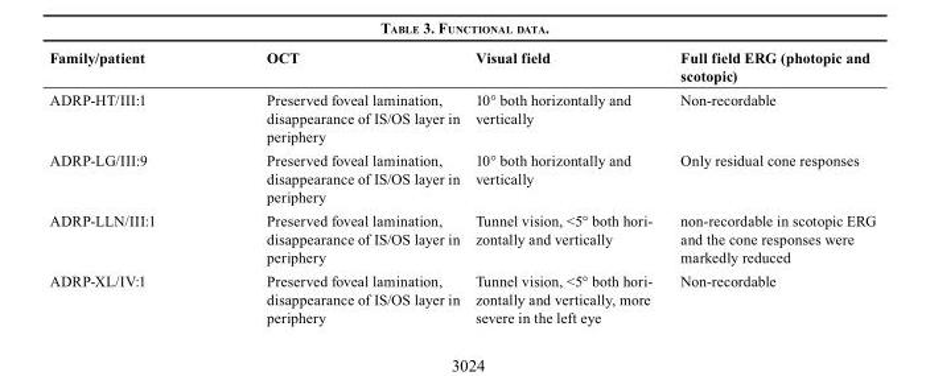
<table><thead><tr><td>Family/patient</td><td>OCT</td><td>Visual field</td><td>Full field ERG (photopic and scotopic)</td></tr></thead><tbody><tr><td>ADRP-HT/III:1</td><td>Preserved foveal lamination, disappearance of IS/OS layer in periphery</td><td>10° both horizontally and vertically</td><td>Non-recordable</td></tr><tr><td>ADRP-LG/III:9</td><td>Preserved foveal lamination, disappearance of IS/OS layer in periphery</td><td>10° both horizontally and vertically</td><td>Only residual cone responses</td></tr><tr><td>ADRP-LLN/III:1</td><td>Preserved foveal lamination, disappearance of IS/OS layer in periphery</td><td>Tunnel vision, &lt;5° both hori- zontally and vertically</td><td>non-recordable in scotopic ERG and the cone responses were markedly reduced</td></tr><tr><td>ADRP-XL/IV:1</td><td>Preserved foveal lamination, disappearance of IS/OS layer in periphery</td><td>Tunnel vision, &lt;5° both hori- zontally and vertically, more severe in the left eye</td><td>Non-recordable</td></tr></tbody></table>